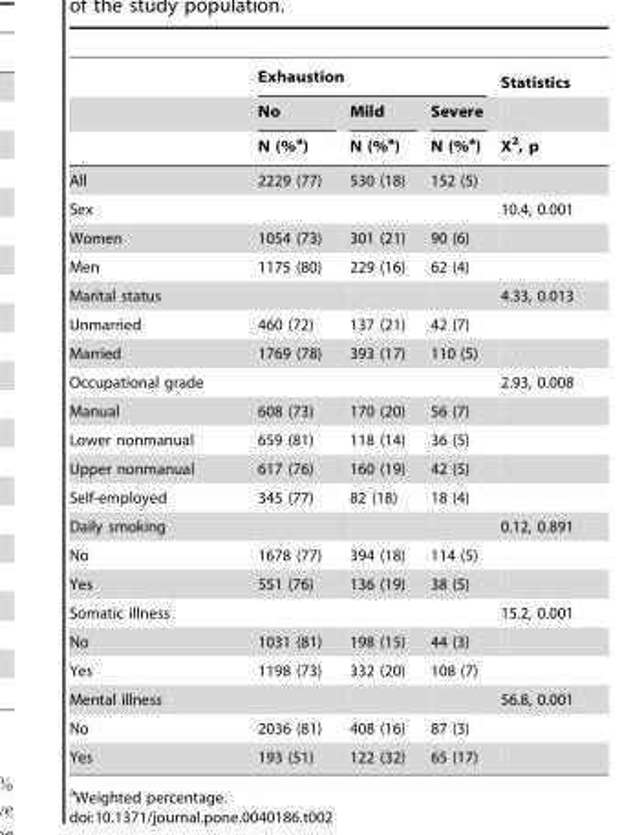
<table><thead><tr><td rowspan="3"></td><td colspan="3">Exhaustion</td><td rowspan="3">Statistics X<sup>2</sup>, p</td></tr><tr><td rowspan="2">No N (%a)</td><td rowspan="2">Mild N (%<sup>a</sup>)</td><td rowspan="2">Severe N (%<sup>a</sup>)</td></tr><tr></tr></thead><tbody><tr><td>All</td><td>2229 (77)</td><td>530 (18)</td><td>152 (5)</td><td></td></tr><tr><td>Sex</td><td></td><td></td><td></td><td>10.4, 0.001</td></tr><tr><td>Women</td><td>1054 (73)</td><td>301 (21)</td><td>90 (6)</td><td></td></tr><tr><td>Men</td><td>1175 (80)</td><td>229 (16)</td><td>62 (4)</td><td></td></tr><tr><td>Marital status</td><td></td><td></td><td></td><td>4.33, 0.013</td></tr><tr><td>Unmarried</td><td>460 (72)</td><td>137 (21)</td><td>42 (7)</td><td></td></tr><tr><td>Married</td><td>1769 (78)</td><td>393 (17)</td><td>110 (5)</td><td></td></tr><tr><td>Occupational grade</td><td></td><td></td><td></td><td>2.93, 0.008</td></tr><tr><td>Manual</td><td>608 (73)</td><td>170 (20)</td><td>56 (7)</td><td></td></tr><tr><td>Lower nonmanual</td><td>659 (81)</td><td>118 (14)</td><td>36 (5)</td><td></td></tr><tr><td>Upper nonmanual</td><td>617 (76)</td><td>160 (19)</td><td>42 (5)</td><td></td></tr><tr><td>Self-employed</td><td>345 (77)</td><td>82 (18)</td><td>18 (4)</td><td></td></tr><tr><td>Daily smoking</td><td></td><td></td><td></td><td>0.12, 0.891</td></tr><tr><td>No</td><td>1678 (77)</td><td>394 (18)</td><td>114 (5)</td><td></td></tr><tr><td>Yes</td><td>551 (76)</td><td>136 (19)</td><td>38 (5)</td><td></td></tr><tr><td>Somatic illness</td><td></td><td></td><td></td><td>15.2, 0.001</td></tr><tr><td>No</td><td>1031 (81)</td><td>198 (15)</td><td>44 (3)</td><td></td></tr><tr><td>Yes</td><td>1198 (73)</td><td>332 (20)</td><td>108 (7)</td><td></td></tr><tr><td>Mental illness</td><td></td><td></td><td></td><td>56.8, 0.001</td></tr><tr><td>No</td><td>2036 (81)</td><td>408 (16)</td><td>87 (3)</td><td></td></tr><tr><td>Yes</td><td>193 (51)</td><td>122 (32)</td><td>65 (17)</td><td></td></tr></tbody></table>